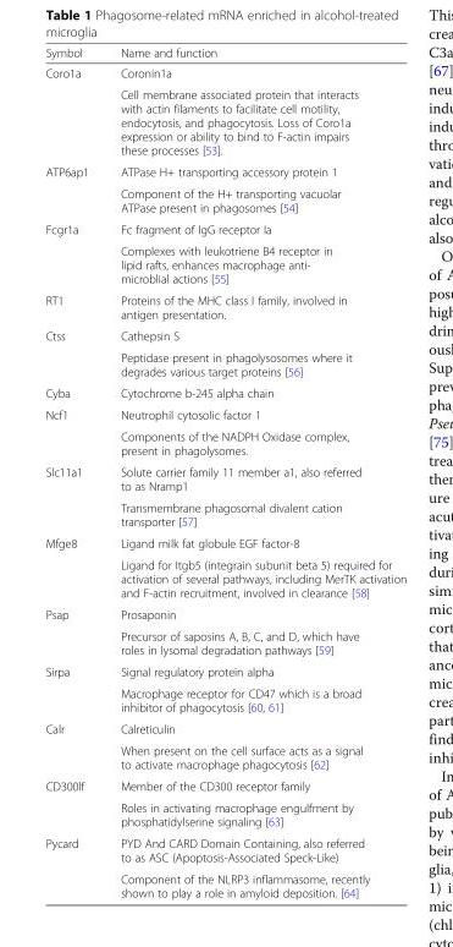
<table><thead><tr><td>Symbol</td><td>Name and function</td></tr></thead><tbody><tr><td rowspan="2">Coro1a</td><td>Coronin1a</td></tr><tr><td>Cell membrane associated protein that interacts with actin filaments to facilitate cell motility, endocytosis, and phagocytosis. Loss of Coro1a expression or ability to bind to F-actin impairs these processes [53].</td></tr><tr><td rowspan="2">ATP6ap1</td><td>ATPase H+ transporting accessory protein 1</td></tr><tr><td>Component of the H+ transporting vacuolar ATPase present in phagosomes [54]</td></tr><tr><td rowspan="2">Fcgr1a</td><td>Fc fragment of IgG receptor Ia</td></tr><tr><td>Complexes with leukotriene B4 receptor in lipid rafts, enhances macrophage anti- microblial actions [55]</td></tr><tr><td>RT1</td><td>Proteins of the MHC class I family, involved in antigen presentation.</td></tr><tr><td rowspan="2">Ctss</td><td>Cathepsin S</td></tr><tr><td>Peptidase present in phagolysosomes where it degrades various target proteins [56]</td></tr><tr><td>Cyba</td><td>Cytochrome b-245 alpha chain</td></tr><tr><td rowspan="2">Ncf1</td><td>Neutrophil cytosolic factor 1</td></tr><tr><td>Components of the NADPH Oxidase complex, present in phagolysomes.</td></tr><tr><td rowspan="2">Slc11a1</td><td>Solute carrier family 11 member a1, also referred to as Nramp1</td></tr><tr><td>Transmembrane phagosomal divalent cation transporter [57]</td></tr><tr><td rowspan="2">Mfge8</td><td>Ligand milk fat globule EGF factor-8</td></tr><tr><td>Ligand for Itgb5 (integrain subunit beta 5) required for activation of several pathways, including MerTK activation and F-actin recruitment, involved in clearance [58]</td></tr><tr><td rowspan="2">Psap</td><td>Prosaponin</td></tr><tr><td>Precursor of saposins A, B, C, and D, which have roles in lysomal degradation pathways [59]</td></tr><tr><td rowspan="2">Sirpa</td><td>Signal regulatory protein alpha</td></tr><tr><td>Macrophage receptor for CD47 which is a broad inhibitor of phagocytosis [60, 61]</td></tr><tr><td rowspan="2">Calr</td><td>Calreticulin</td></tr><tr><td>When present on the cell surface acts as a signal to activate macrophage phagocytosis [62]</td></tr><tr><td rowspan="2">CD300lf</td><td>Member of the CD300 receptor family</td></tr><tr><td>Roles in activating macrophage engulfment by phosphatidylserine signaling [63]</td></tr><tr><td rowspan="2">Pycard</td><td>PYD And CARD Domain Containing, also referred to as ASC (Apoptosis-Associated Speck-Like)</td></tr><tr><td>Component of the NLRP3 inflammasome, recently shown to play a role in amyloid deposition. [64]</td></tr></tbody></table>